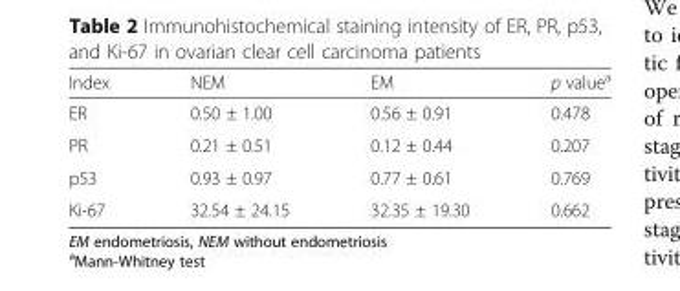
<table><thead><tr><td>Index</td><td>NEM</td><td>EM</td><td>p value<sup>a</sup></td></tr></thead><tbody><tr><td>ER</td><td>0.50 ± 1.00</td><td>0.56 ± 0.91</td><td>0.478</td></tr><tr><td>PR</td><td>0.21 ± 0.51</td><td>0.12 ± 0.44</td><td>0.207</td></tr><tr><td>p53</td><td>0.93 ± 0.97</td><td>0.77 ± 0.61</td><td>0.769</td></tr><tr><td>Ki-67</td><td>32.54 ± 24.15</td><td>32.35 ± 19.30</td><td>0.662</td></tr></tbody></table>